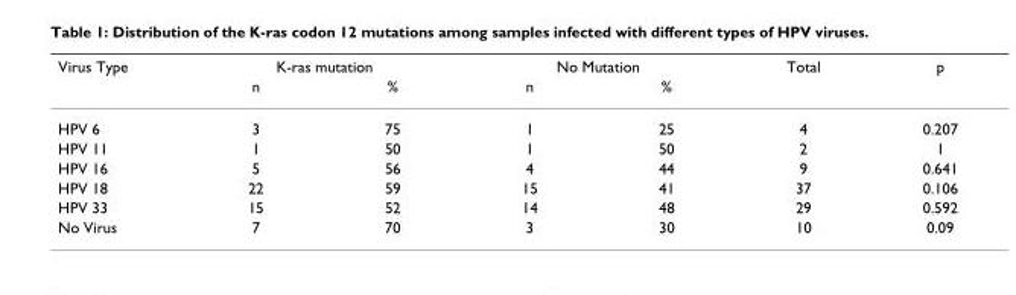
<table><thead><tr><td rowspan="2">Virus Type</td><td colspan="2">K-ras mutation</td><td colspan="2">No Mutation</td><td rowspan="2">Total</td><td rowspan="2">p</td></tr><tr><td>n</td><td>%</td><td>n</td><td>%</td></tr></thead><tbody><tr><td>HPV 6</td><td>3</td><td>75</td><td>1</td><td>25</td><td>4</td><td>0.207</td></tr><tr><td>HPV 11</td><td>1</td><td>50</td><td>1</td><td>50</td><td>2</td><td>1</td></tr><tr><td>HPV 16</td><td>5</td><td>56</td><td>4</td><td>44</td><td>9</td><td>0.641</td></tr><tr><td>HPV 18</td><td>22</td><td>59</td><td>15</td><td>41</td><td>37</td><td>0.106</td></tr><tr><td>HPV 33</td><td>15</td><td>52</td><td>14</td><td>48</td><td>29</td><td>0.592</td></tr><tr><td>No Virus</td><td>7</td><td>70</td><td>3</td><td>30</td><td>10</td><td>0.09</td></tr></tbody></table>